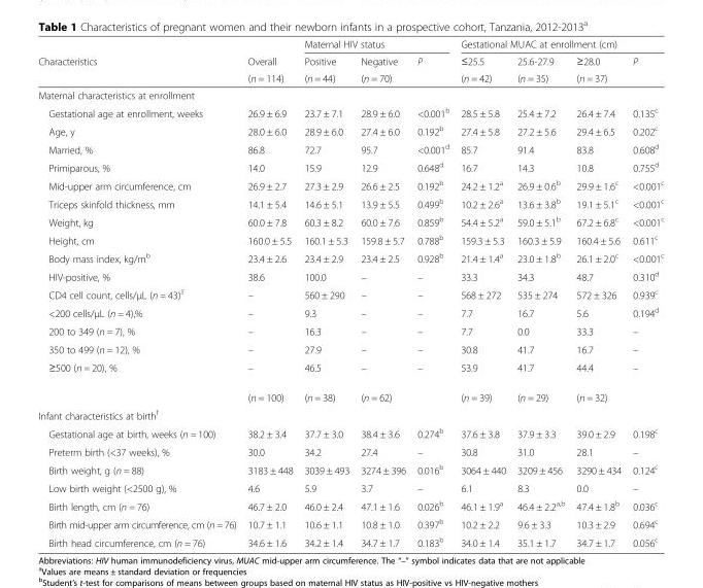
<table><thead><tr><td rowspan="3">Characteristics</td><td rowspan="3">Overall (n = 114)</td><td colspan="3">Maternal HIV status</td><td colspan="4">Gestational MUAC at enrollment (cm)</td></tr><tr><td rowspan="2">Positive (n = 44)</td><td rowspan="2">Negative (n = 70)</td><td rowspan="2">P</td><td rowspan="2">≤25.5 (n = 42)</td><td rowspan="2">25.6-27.9 (n = 35)</td><td rowspan="2">≥28.0 (n = 37)</td><td rowspan="2">P</td></tr><tr></tr></thead><tbody><tr><td colspan="9">Maternal characteristics at enrollment</td></tr><tr><td>Gestational age at enrollment, weeks</td><td>26.9 ± 6.9</td><td>23.7 ± 7.1</td><td>28.9 ± 6.0</td><td>&lt;0.001<sup>b</sup></td><td>28.5 ± 5.8</td><td>25.4 ± 7.2</td><td>26.4 ± 7.4</td><td>0.135<sup>c</sup></td></tr><tr><td>Age, y</td><td>28.0 ± 6.0</td><td>28.9 ± 6.0</td><td>27.4 ± 6.0</td><td>0.192<sup>b</sup></td><td>27.4 ± 5.8</td><td>27.2 ± 5.6</td><td>29.4 ± 6.5</td><td>0.202<sup>c</sup></td></tr><tr><td>Married, %</td><td>86.8</td><td>72.7</td><td>95.7</td><td>&lt;0.001<sup>d</sup></td><td>85.7</td><td>91.4</td><td>83.8</td><td>0.608<sup>d</sup></td></tr><tr><td>Primiparous, %</td><td>14.0</td><td>15.9</td><td>12.9</td><td>0.648<sup>d</sup></td><td>16.7</td><td>14.3</td><td>10.8</td><td>0.755<sup>d</sup></td></tr><tr><td>Mid-upper arm circumference, cm</td><td>26.9 ± 2.7</td><td>27.3 ± 2.9</td><td>26.6 ± 2.5</td><td>0.192<sup>b</sup></td><td>24.2 ± 1.2<sup>a</sup></td><td>26.9 ± 0.6<sup>b</sup></td><td>29.9 ± 1.6<sup>c</sup></td><td>&lt;0.001<sup>c</sup></td></tr><tr><td>Triceps skinfold thickness, mm</td><td>14.1 ± 5.4</td><td>14.6 ± 5.1</td><td>13.9 ± 5.5</td><td>0.499<sup>b</sup></td><td>10.2 ± 2.6<sup>a</sup></td><td>13.6 ± 3.8<sup>b</sup></td><td>19.1 ± 5.1<sup>c</sup></td><td>&lt;0.001<sup>c</sup></td></tr><tr><td>Weight, kg</td><td>60.0 ± 7.8</td><td>60.3 ± 8.2</td><td>60.0 ± 7.6</td><td>0.859<sup>b</sup></td><td>54.4 ± 5.2<sup>a</sup></td><td>59.0 ± 5.1<sup>b</sup></td><td>67.2 ± 6.8<sup>c</sup></td><td>&lt;0.001<sup>c</sup></td></tr><tr><td>Height, cm</td><td>160.0 ± 5.5</td><td>160.1 ± 5.3</td><td>159.8 ± 5.7</td><td>0.788<sup>b</sup></td><td>159.3 ± 5.3</td><td>160.3 ± 5.9</td><td>160.4 ± 5.6</td><td>0.611<sup>c</sup></td></tr><tr><td>Body mass index, kg/m<sup>b</sup></td><td>23.4 ± 2.6</td><td>23.4 ± 2.9</td><td>23.4 ± 2.5</td><td>0.928<sup>b</sup></td><td>21.4 ± 1.4<sup>a</sup></td><td>23.0 ± 1.8<sup>b</sup></td><td>26.1 ± 2.0<sup>c</sup></td><td>&lt;0.001<sup>c</sup></td></tr><tr><td>HIV-positive, %</td><td>38.6</td><td>100.0</td><td>–</td><td>–</td><td>33.3</td><td>34.3</td><td>48.7</td><td>0.310<sup>d</sup></td></tr><tr><td>CD4 cell count, cells/μL (n = 43)<sup>5</sup></td><td>–</td><td>560 ± 290</td><td>–</td><td>–</td><td>568 ± 272</td><td>535 ± 274</td><td>572 ± 326</td><td>0.939<sup>c</sup></td></tr><tr><td>&lt;200 cells/μL (n = 4),%</td><td>–</td><td>9.3</td><td>–</td><td>–</td><td>7.7</td><td>16.7</td><td>5.6</td><td>0.194<sup>d</sup></td></tr><tr><td>200 to 349 (n = 7), %</td><td>–</td><td>16.3</td><td>–</td><td>–</td><td>7.7</td><td>0.0</td><td>33.3</td><td>–</td></tr><tr><td>350 to 499 (n = 12), %</td><td>–</td><td>27.9</td><td>–</td><td>–</td><td>30.8</td><td>41.7</td><td>16.7</td><td>–</td></tr><tr><td rowspan="2">≥500 (n = 20), %</td><td>–</td><td>46.5</td><td>–</td><td>–</td><td>53.9</td><td>41.7</td><td>44.4</td><td>–</td></tr><tr><td>(n = 100)</td><td>(n = 38)</td><td>(n = 62)</td><td></td><td>(n = 39)</td><td>(n = 29)</td><td>(n = 32)</td><td></td></tr><tr><td colspan="9">Infant characteristics at birth<sup>f</sup></td></tr><tr><td>Gestational age at birth, weeks (n = 100)</td><td>38.2 ± 3.4</td><td>37.7 ± 3.0</td><td>38.4 ± 3.6</td><td>0.274<sup>b</sup></td><td>37.6 ± 3.8</td><td>37.9 ± 3.3</td><td>39.0 ± 2.9</td><td>0.198<sup>c</sup></td></tr><tr><td>Preterm birth (&lt;37 weeks), %</td><td>30.0</td><td>34.2</td><td>27.4</td><td>–</td><td>30.8</td><td>31.0</td><td>28.1</td><td>–</td></tr><tr><td>Birth weight, g (n = 88)</td><td>3183 ± 448</td><td>3039 ± 493</td><td>3274 ± 396</td><td>0.016<sup>b</sup></td><td>3064 ± 440</td><td>3209 ± 456</td><td>3290 ± 434</td><td>0.124<sup>c</sup></td></tr><tr><td>Low birth weight (&lt;2500 g), %</td><td>4.6</td><td>5.9</td><td>3.7</td><td>–</td><td>6.1</td><td>8.3</td><td>0.0</td><td>–</td></tr><tr><td>Birth length, cm (n = 76)</td><td>46.7 ± 2.0</td><td>46.0 ± 2.4</td><td>47.1 ± 1.6</td><td>0.026<sup>b</sup></td><td>46.1 ± 1.9<sup>a</sup></td><td>46.4 ± 2.2<sup>a,b</sup></td><td>47.4 ± 1.8<sup>b</sup></td><td>0.036<sup>c</sup></td></tr><tr><td>Birth mid-upper arm circumference, cm (n = 76)</td><td>10.7 ± 1.1</td><td>10.6 ± 1.1</td><td>10.8 ± 1.0</td><td>0.397<sup>b</sup></td><td>10.2 ± 2.2</td><td>9.6 ± 3.3</td><td>10.3 ± 2.9</td><td>0.694<sup>c</sup></td></tr><tr><td>Birth head circumference, cm (n = 76)</td><td>34.6 ± 1.6</td><td>34.2 ± 1.4</td><td>34.7 ± 1.7</td><td>0.183<sup>b</sup></td><td>34.0 ± 1.4</td><td>35.1 ± 1.7</td><td>34.7 ± 1.7</td><td>0.056<sup>c</sup></td></tr></tbody></table>